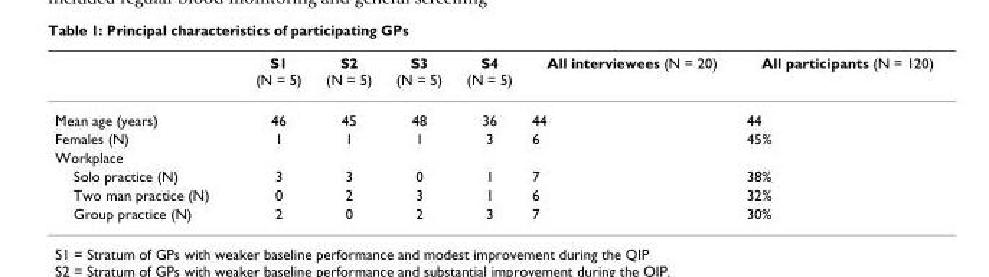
<table><thead><tr><td></td><td>S1 (N = 5)</td><td>S2 (N = 5)</td><td>S3 (N = 5)</td><td>S4 (N = 5)</td><td>All interviewees (N = 20)</td><td>All participants (N = 120)</td></tr></thead><tbody><tr><td>Mean age (years)</td><td>46</td><td>45</td><td>48</td><td>36</td><td>44</td><td>44</td></tr><tr><td>Females (N)</td><td>1</td><td>1</td><td>1</td><td>3</td><td>6</td><td>45%</td></tr><tr><td colspan="7">Workplace</td></tr><tr><td>Solo practice (N)</td><td>3</td><td>3</td><td>0</td><td>1</td><td>7</td><td>38%</td></tr><tr><td>Two man practice (N)</td><td>0</td><td>2</td><td>3</td><td>1</td><td>6</td><td>32%</td></tr><tr><td>Group practice (N)</td><td>2</td><td>0</td><td>2</td><td>3</td><td>7</td><td>30%</td></tr></tbody></table>